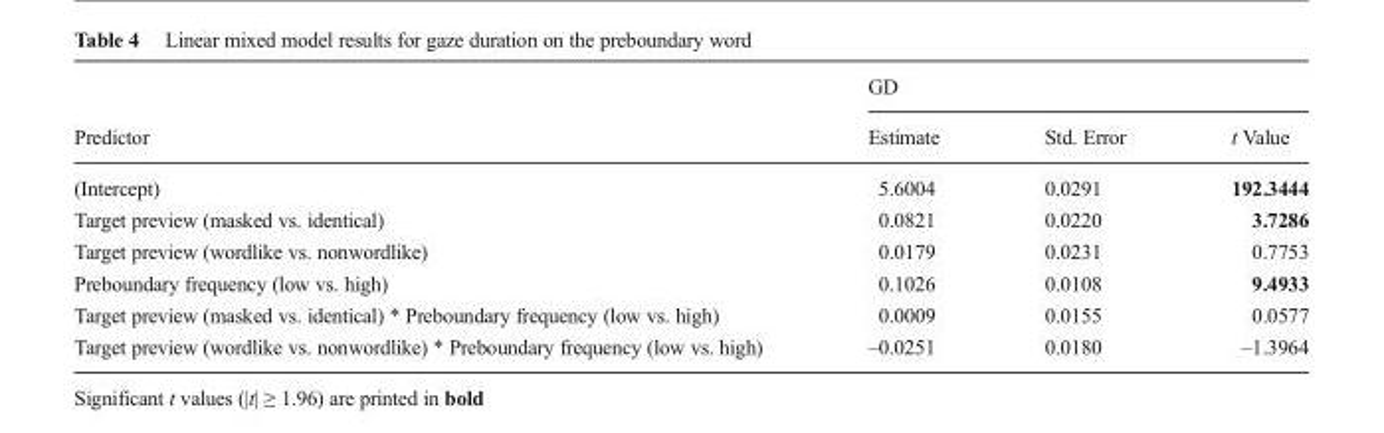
<table><thead><tr><td rowspan="2">Predictor</td><td colspan="3">GD</td></tr><tr><td>Estimate</td><td>Std. Error</td><td>t Value</td></tr></thead><tbody><tr><td>(Intercept)</td><td>5.6004</td><td>0.0291</td><td>192.3444</td></tr><tr><td>Target preview (masked vs. identical)</td><td>0.0821</td><td>0.0220</td><td>3.7286</td></tr><tr><td>Target preview (wordlike vs. nonwordlike)</td><td>0.0179</td><td>0.0231</td><td>0.7753</td></tr><tr><td>Preboundary frequency (low vs. high)</td><td>0.1026</td><td>0.0108</td><td>9.4933</td></tr><tr><td>Target preview (masked vs. identical) * Preboundary frequency (low vs. high)</td><td>0.0009</td><td>0.0155</td><td>0.0577</td></tr><tr><td>Target preview (wordlike vs. nonwordlike) * Preboundary frequency (low vs. high)</td><td>–0.0251</td><td>0.0180</td><td>–1.3964</td></tr></tbody></table>